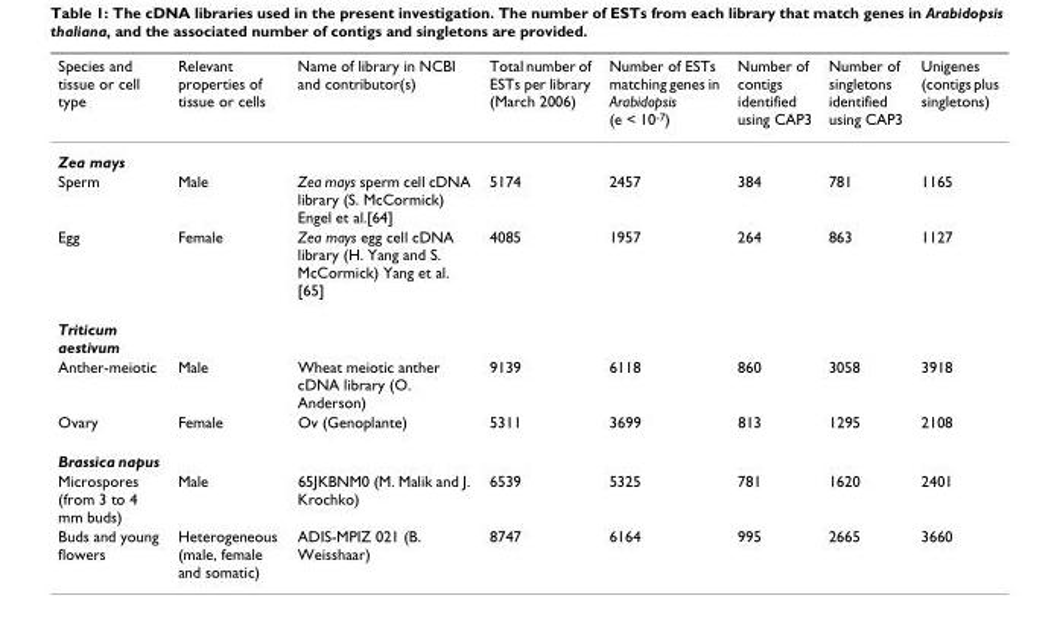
<table><thead><tr><td>Species and tissue or cell type</td><td>Relevant properties of tissue or cells</td><td>Name of library in NCBI and contributor(s)</td><td>Total number of ESTs per library (March 2006)</td><td>Number of ESTs matching genes in Arabidopsis (e &lt; 10<sup>-7</sup>)</td><td>Number of contigs identified using CAP3</td><td>Number of singletons identified using CAP3</td><td>Unigenes (contigs plus singletons)</td></tr></thead><tbody><tr><td colspan="8">Zea mays</td></tr><tr><td>Sperm</td><td>Male</td><td>Zea mays sperm cell cDNA library (S. McCormick) Engel et al.[64]</td><td>5174</td><td>2457</td><td>384</td><td>781</td><td>1165</td></tr><tr><td>Egg</td><td>Female</td><td>Zea mays egg cell cDNA library (H. Yang and S. McCormick) Yang et al. [65]</td><td>4085</td><td>1957</td><td>264</td><td>863</td><td>1127</td></tr><tr><td colspan="8">Triticum aestivum</td></tr><tr><td>Anther-meiotic</td><td>Male</td><td>Wheat meiotic anther cDNA library (O. Anderson)</td><td>9139</td><td>6118</td><td>860</td><td>3058</td><td>3918</td></tr><tr><td>Ovary</td><td>Female</td><td>Ov (Genoplante)</td><td>5311</td><td>3699</td><td>813</td><td>1295</td><td>2108</td></tr><tr><td colspan="8">Brassica napus</td></tr><tr><td>Microspores (from 3 to 4 mm buds)</td><td>Male</td><td>65JKBNM0 (M. Malik and J. Krochko)</td><td>6539</td><td>5325</td><td>781</td><td>1620</td><td>2401</td></tr><tr><td>Buds and young flowers</td><td>Heterogeneous (male, female and somatic)</td><td>ADIS-MPIZ 021 (B. Weisshaar)</td><td>8747</td><td>6164</td><td>995</td><td>2665</td><td>3660</td></tr></tbody></table>